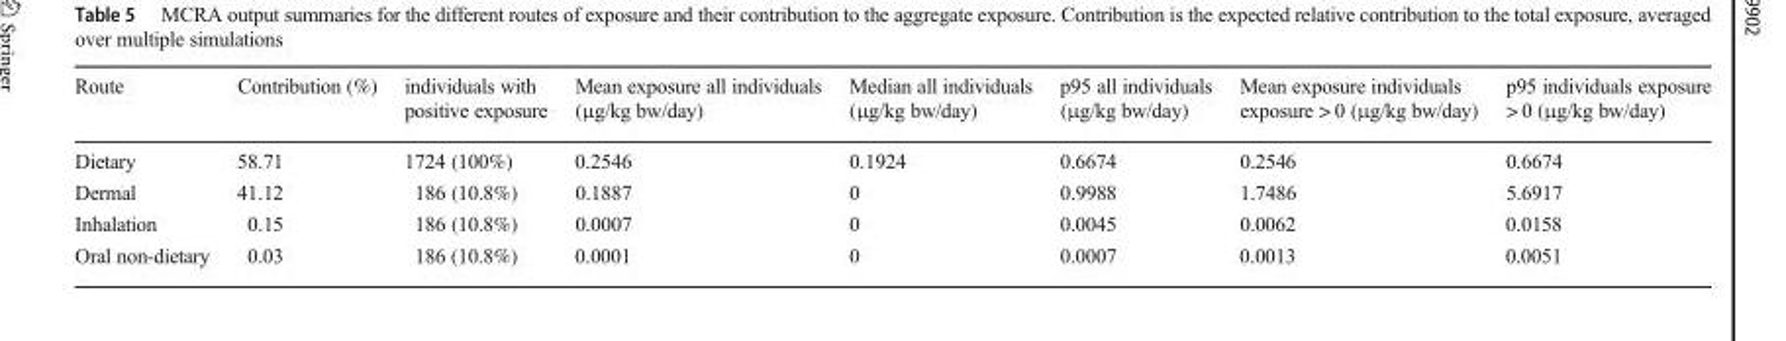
<table><thead><tr><td>Route</td><td>Contribution (%)</td><td>individuals with positive exposure</td><td>Mean exposure all individuals (μg/kg bw/day)</td><td>Median all individuals (μg/kg bw/day)</td><td>p95 all individuals (μg/kg bw/day)</td><td>Mean exposure individuals exposure &gt; 0 (μg/kg bw/day)</td><td>p95 individuals exposure &gt; 0 (μg/kg bw/day)</td></tr></thead><tbody><tr><td>Dietary</td><td>58.71</td><td>1724 (100%)</td><td>0.2546</td><td>0.1924</td><td>0.6674</td><td>0.2546</td><td>0.6674</td></tr><tr><td>Dermal</td><td>41.12</td><td>186 (10.8%)</td><td>0.1887</td><td>0</td><td>0.9988</td><td>1.7486</td><td>5.6917</td></tr><tr><td>Inhalation</td><td>0.15</td><td>186 (10.8%)</td><td>0.0007</td><td>0</td><td>0.0045</td><td>0.0062</td><td>0.0158</td></tr><tr><td>Oral non-dietary</td><td>0.03</td><td>186 (10.8%)</td><td>0.0001</td><td>0</td><td>0.0007</td><td>0.0013</td><td>0.0051</td></tr></tbody></table>